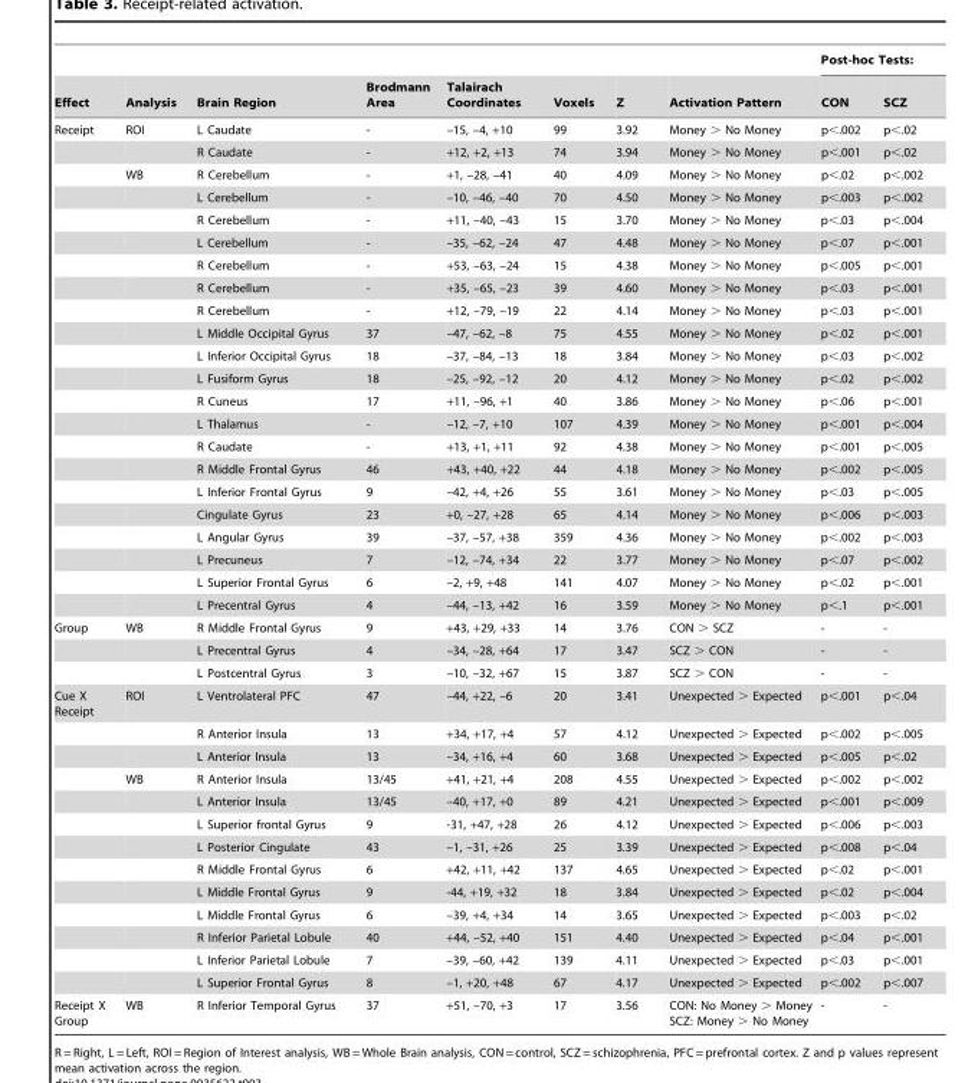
<table><thead><tr><td rowspan="2">Effect</td><td rowspan="2">Analysis</td><td rowspan="2">Brain Region</td><td rowspan="2">Brodmann Area</td><td rowspan="2">Talairach Coordinates</td><td rowspan="2">Voxels</td><td rowspan="2">Z</td><td rowspan="2">Activation Pattern</td><td colspan="2">Post-hoc Tests:</td></tr><tr><td>CON</td><td>SCZ</td></tr></thead><tbody><tr><td rowspan="22">Receipt</td><td>ROI</td><td>L Caudate</td><td>-</td><td>–15, –4, +10</td><td>99</td><td>3.92</td><td>Money &gt; No Money</td><td>p&lt;.002</td><td>p&lt;.02</td></tr><tr><td></td><td>R Caudate</td><td>-</td><td>+12, +2, +13</td><td>74</td><td>3.94</td><td>Money &gt; No Money</td><td>p&lt;.001</td><td>p&lt;.02</td></tr><tr><td>WB</td><td>R Cerebellum</td><td>-</td><td>+1, –28, –41</td><td>40</td><td>4.09</td><td>Money &gt; No Money</td><td>p&lt;.02</td><td>p&lt;.002</td></tr><tr><td></td><td>L Cerebellum</td><td>-</td><td>–10, –46, –40</td><td>70</td><td>4.50</td><td>Money &gt; No Money</td><td>p&lt;.003</td><td>p&lt;.002</td></tr><tr><td></td><td>R Cerebellum</td><td>-</td><td>+11, –40, –43</td><td>15</td><td>3.70</td><td>Money &gt; No Money</td><td>p&lt;.03</td><td>p&lt;.004</td></tr><tr><td></td><td>L Cerebellum</td><td>-</td><td>–35, –62, –24</td><td>47</td><td>4.48</td><td>Money &gt; No Money</td><td>p&lt;.07</td><td>p&lt;.001</td></tr><tr><td></td><td>R Cerebellum</td><td>-</td><td>+53, –63, –24</td><td>15</td><td>4.38</td><td>Money &gt; No Money</td><td>p&lt;.005</td><td>p&lt;.001</td></tr><tr><td></td><td>R Cerebellum</td><td>-</td><td>+35, –65, –23</td><td>39</td><td>4.60</td><td>Money &gt; No Money</td><td>p&lt;.03</td><td>p&lt;.001</td></tr><tr><td></td><td>R Cerebellum</td><td>-</td><td>+12, –79, –19</td><td>22</td><td>4.14</td><td>Money &gt; No Money</td><td>p&lt;.03</td><td>p&lt;.001</td></tr><tr><td></td><td>L Middle Occipital Gyrus</td><td>37</td><td>–47, –62, –8</td><td>75</td><td>4.55</td><td>Money &gt; No Money</td><td>p&lt;.02</td><td>p&lt;.001</td></tr><tr><td></td><td>L Inferior Occipital Gyrus</td><td>18</td><td>–37, –84, –13</td><td>18</td><td>3.84</td><td>Money &gt; No Money</td><td>p&lt;.03</td><td>p&lt;.002</td></tr><tr><td></td><td>L Fusiform Gyrus</td><td>18</td><td>–25, –92, –12</td><td>20</td><td>4.12</td><td>Money &gt; No Money</td><td>p&lt;.02</td><td>p&lt;.002</td></tr><tr><td></td><td>R Cuneus</td><td>17</td><td>+11, –96, +1</td><td>40</td><td>3.86</td><td>Money &gt; No Money</td><td>p&lt;.06</td><td>p&lt;.001</td></tr><tr><td></td><td>L Thalamus</td><td>-</td><td>–12, –7, +10</td><td>107</td><td>4.39</td><td>Money &gt; No Money</td><td>p&lt;.001</td><td>p&lt;.004</td></tr><tr><td></td><td>R Caudate</td><td>-</td><td>+13, +1, +11</td><td>92</td><td>4.38</td><td>Money &gt; No Money</td><td>p&lt;.001</td><td>p&lt;.005</td></tr><tr><td></td><td>R Middle Frontal Gyrus</td><td>46</td><td>+43, +40, +22</td><td>44</td><td>4.18</td><td>Money &gt; No Money</td><td>p&lt;.002</td><td>p&lt;.005</td></tr><tr><td></td><td>L Inferior Frontal Gyrus</td><td>9</td><td>–42, +4, +26</td><td>55</td><td>3.61</td><td>Money &gt; No Money</td><td>p&lt;.03</td><td>p&lt;.005</td></tr><tr><td></td><td>Cingulate Gyrus</td><td>23</td><td>+0, –27, +28</td><td>65</td><td>4.14</td><td>Money &gt; No Money</td><td>p&lt;.006</td><td>p&lt;.003</td></tr><tr><td></td><td>L Angular Gyrus</td><td>39</td><td>–37, –57, +38</td><td>359</td><td>4.36</td><td>Money &gt; No Money</td><td>p&lt;.002</td><td>p&lt;.003</td></tr><tr><td></td><td>L Precuneus</td><td>7</td><td>–12, –74, +34</td><td>22</td><td>3.77</td><td>Money &gt; No Money</td><td>p&lt;.07</td><td>p&lt;.002</td></tr><tr><td></td><td>L Superior Frontal Gyrus</td><td>6</td><td>–2, +9, +48</td><td>141</td><td>4.07</td><td>Money &gt; No Money</td><td>p&lt;.02</td><td>p&lt;.001</td></tr><tr><td></td><td>L Precentral Gyrus</td><td>4</td><td>–44, –13, +42</td><td>16</td><td>3.59</td><td>Money &gt; No Money</td><td>p&lt;.1</td><td>p&lt;.001</td></tr><tr><td rowspan="3">Group</td><td>WB</td><td>R Middle Frontal Gyrus</td><td>9</td><td>+43, +29, +33</td><td>14</td><td>3.76</td><td>CON &gt; SCZ</td><td>-</td><td>-</td></tr><tr><td></td><td>L Precentral Gyrus</td><td>4</td><td>–34, –28, +64</td><td>17</td><td>3.47</td><td>SCZ &gt; CON</td><td>-</td><td>-</td></tr><tr><td></td><td>L Postcentral Gyrus</td><td>3</td><td>–10, –32, +67</td><td>15</td><td>3.87</td><td>SCZ &gt; CON</td><td>-</td><td>-</td></tr><tr><td rowspan="13">Cue X Receipt</td><td>ROI</td><td>L Ventrolateral PFC</td><td>47</td><td>–44, +22, –6</td><td>20</td><td>3.41</td><td>Unexpected &gt; Expected</td><td>p&lt;.001</td><td>p&lt;.04</td></tr><tr><td></td><td>R Anterior Insula</td><td>13</td><td>+34, +17, +4</td><td>57</td><td>4.12</td><td>Unexpected &gt; Expected</td><td>p&lt;.002</td><td>p&lt;.005</td></tr><tr><td></td><td>L Anterior Insula</td><td>13</td><td>–34, +16, +4</td><td>60</td><td>3.68</td><td>Unexpected &gt; Expected</td><td>p&lt;.005</td><td>p&lt;.02</td></tr><tr><td>WB</td><td>R Anterior Insula</td><td>13/45</td><td>+41, +21, +4</td><td>208</td><td>4.55</td><td>Unexpected &gt; Expected</td><td>p&lt;.002</td><td>p&lt;.002</td></tr><tr><td></td><td>L Anterior Insula</td><td>13/45</td><td>–40, +17, +0</td><td>89</td><td>4.21</td><td>Unexpected &gt; Expected</td><td>p&lt;.001</td><td>p&lt;.009</td></tr><tr><td></td><td>L Superior frontal Gyrus</td><td>9</td><td>-31, +47, +28</td><td>26</td><td>4.12</td><td>Unexpected &gt; Expected</td><td>p&lt;.006</td><td>p&lt;.003</td></tr><tr><td></td><td>L Posterior Cingulate</td><td>43</td><td>–1, –31, +26</td><td>25</td><td>3.39</td><td>Unexpected &gt; Expected</td><td>p&lt;.008</td><td>p&lt;.04</td></tr><tr><td></td><td>R Middle Frontal Gyrus</td><td>6</td><td>+42, +11, +42</td><td>137</td><td>4.65</td><td>Unexpected &gt; Expected</td><td>p&lt;.02</td><td>p&lt;.001</td></tr><tr><td></td><td>L Middle Frontal Gyrus</td><td>9</td><td>-44, +19, +32</td><td>18</td><td>3.84</td><td>Unexpected &gt; Expected</td><td>p&lt;.02</td><td>p&lt;.004</td></tr><tr><td></td><td>L Middle Frontal Gyrus</td><td>6</td><td>–39, +4, +34</td><td>14</td><td>3.65</td><td>Unexpected &gt; Expected</td><td>p&lt;.003</td><td>p&lt;.02</td></tr><tr><td></td><td>R Inferior Parietal Lobule</td><td>40</td><td>+44, –52, +40</td><td>151</td><td>4.40</td><td>Unexpected &gt; Expected</td><td>p&lt;.04</td><td>p&lt;.001</td></tr><tr><td></td><td>L Inferior Parietal Lobule</td><td>7</td><td>–39, –60, +42</td><td>139</td><td>4.11</td><td>Unexpected &gt; Expected</td><td>p&lt;.03</td><td>p&lt;.001</td></tr><tr><td></td><td>L Superior Frontal Gyrus</td><td>8</td><td>–1, +20, +48</td><td>67</td><td>4.17</td><td>Unexpected &gt; Expected</td><td>p&lt;.002</td><td>p&lt;.007</td></tr><tr><td>Receipt X Group</td><td>WB</td><td>R Inferior Temporal Gyrus</td><td>37</td><td>+51, –70, +3</td><td>17</td><td>3.56</td><td>CON: No Money &gt; Money SCZ: Money &gt; No Money</td><td>-</td><td>-</td></tr></tbody></table>